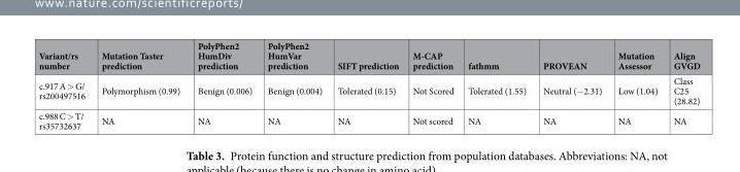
<table><thead><tr><td>Variant/rs number</td><td>Mutation Taster prediction</td><td>PolyPhen2 HumDiv prediction</td><td>PolyPhen2 HumVar prediction</td><td>SIFT prediction</td><td>M-CAP prediction</td><td>fathmm</td><td>PROVEAN</td><td>Mutation Assessor</td><td>Align GVGD</td></tr></thead><tbody><tr><td>c.917 A &gt; G/ rs200497516</td><td>Polymorphism (0.99)</td><td>Benign (0.006)</td><td>Benign (0.004)</td><td>Tolerated (0.15)</td><td>Not Scored</td><td>Tolerated (1.55)</td><td>Neutral (−2.31)</td><td>Low (1.04)</td><td>Class C25 (28.82)</td></tr><tr><td>c.988 C &gt; T/ rs35732637</td><td>NA</td><td>NA</td><td>NA</td><td>NA</td><td>Not scored</td><td>NA</td><td>NA</td><td>NA</td><td>NA</td></tr></tbody></table>